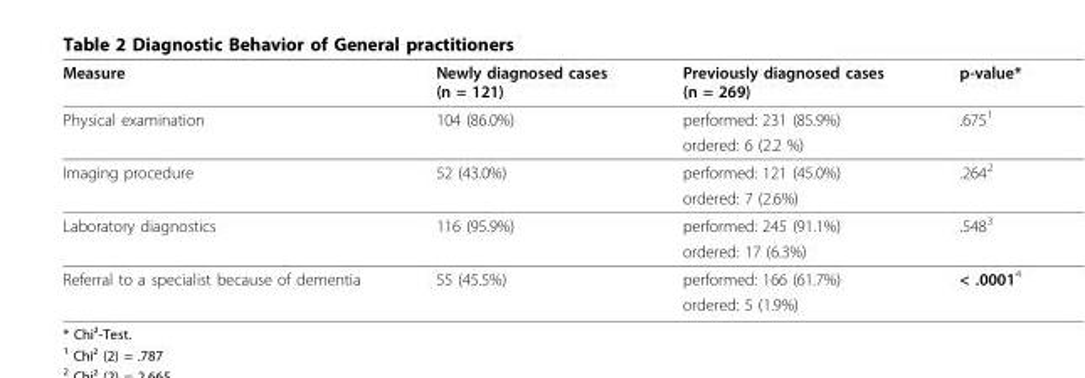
<table><thead><tr><td>Measure</td><td>Newly diagnosed cases (n = 121)</td><td>Previously diagnosed cases (n = 269)</td><td>p-value*</td></tr></thead><tbody><tr><td rowspan="2">Physical examination</td><td>104 (86.0%)</td><td>performed: 231 (85.9%)</td><td>.675<sup>1</sup></td></tr><tr><td></td><td>ordered: 6 (2.2 %)</td><td></td></tr><tr><td rowspan="2">Imaging procedure</td><td>52 (43.0%)</td><td>performed: 121 (45.0%)</td><td>.264<sup>2</sup></td></tr><tr><td></td><td>ordered: 7 (2.6%)</td><td></td></tr><tr><td rowspan="2">Laboratory diagnostics</td><td>116 (95.9%)</td><td>performed: 245 (91.1%)</td><td>.548<sup>3</sup></td></tr><tr><td></td><td>ordered: 17 (6.3%)</td><td></td></tr><tr><td rowspan="2">Referral to a specialist because of dementia</td><td>55 (45.5%)</td><td>performed: 166 (61.7%)</td><td>&lt; .0001<sup>4</sup></td></tr><tr><td></td><td>ordered: 5 (1.9%)</td><td></td></tr></tbody></table>